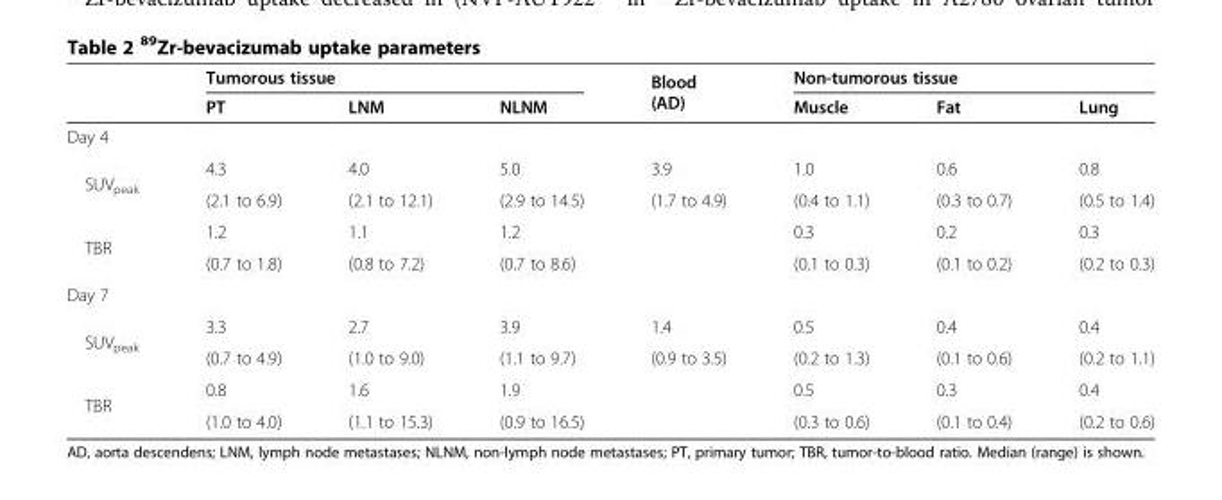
<table><thead><tr><td rowspan="2"></td><td colspan="3">Tumorous tissue</td><td rowspan="2">Blood (AD)</td><td colspan="3">Non-tumorous tissue</td></tr><tr><td>PT</td><td>LNM</td><td>NLNM</td><td>Muscle</td><td>Fat</td><td>Lung</td></tr></thead><tbody><tr><td colspan="8">Day 4</td></tr><tr><td rowspan="2">SUV<sub>peak</sub></td><td>4.3</td><td>4.0</td><td>5.0</td><td>3.9</td><td>1.0</td><td>0.6</td><td>0.8</td></tr><tr><td>(2.1 to 6.9)</td><td>(2.1 to 12.1)</td><td>(2.9 to 14.5)</td><td>(1.7 to 4.9)</td><td>(0.4 to 1.1)</td><td>(0.3 to 0.7)</td><td>(0.5 to 1.4)</td></tr><tr><td rowspan="2">TBR</td><td>1.2</td><td>1.1</td><td>1.2</td><td></td><td>0.3</td><td>0.2</td><td>0.3</td></tr><tr><td>(0.7 to 1.8)</td><td>(0.8 to 7.2)</td><td>(0.7 to 8.6)</td><td></td><td>(0.1 to 0.3)</td><td>(0.1 to 0.2)</td><td>(0.2 to 0.3)</td></tr><tr><td colspan="8">Day 7</td></tr><tr><td rowspan="2">SUV<sub>peak</sub></td><td>3.3</td><td>2.7</td><td>3.9</td><td>1.4</td><td>0.5</td><td>0.4</td><td>0.4</td></tr><tr><td>(0.7 to 4.9)</td><td>(1.0 to 9.0)</td><td>(1.1 to 9.7)</td><td>(0.9 to 3.5)</td><td>(0.2 to 1.3)</td><td>(0.1 to 0.6)</td><td>(0.2 to 1.1)</td></tr><tr><td rowspan="2">TBR</td><td>0.8</td><td>1.6</td><td>1.9</td><td></td><td>0.5</td><td>0.3</td><td>0.4</td></tr><tr><td>(1.0 to 4.0)</td><td>(1.1 to 15.3)</td><td>(0.9 to 16.5)</td><td></td><td>(0.3 to 0.6)</td><td>(0.1 to 0.4)</td><td>(0.2 to 0.6)</td></tr></tbody></table>